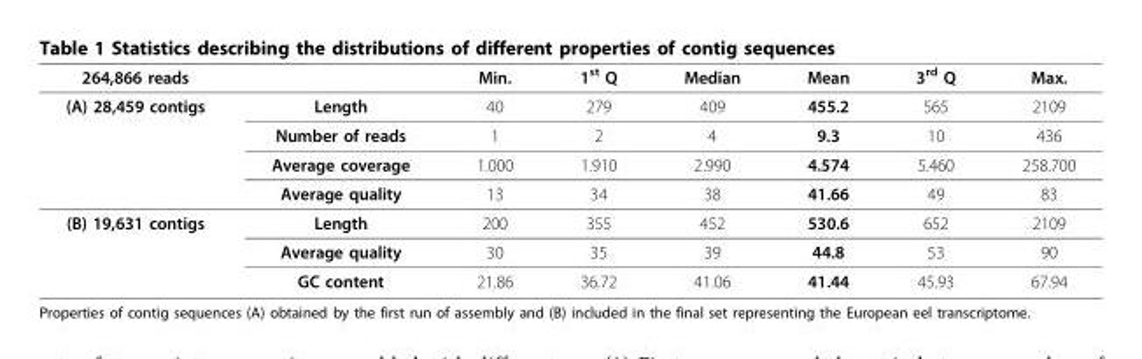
<table><thead><tr><td>264,866 reads</td><td></td><td>Min.</td><td>1<sup>st</sup> Q</td><td>Median</td><td>Mean</td><td>3<sup>rd</sup> Q</td><td>Max.</td></tr></thead><tbody><tr><td rowspan="4">(A) 28,459 contigs</td><td>Length</td><td>40</td><td>279</td><td>409</td><td>455.2</td><td>565</td><td>2109</td></tr><tr><td>Number of reads</td><td>1</td><td>2</td><td>4</td><td>9.3</td><td>10</td><td>436</td></tr><tr><td>Average coverage</td><td>1.000</td><td>1.910</td><td>2.990</td><td>4.574</td><td>5.460</td><td>258.700</td></tr><tr><td>Average quality</td><td>13</td><td>34</td><td>38</td><td>41.66</td><td>49</td><td>83</td></tr><tr><td rowspan="3">(B) 19,631 contigs</td><td>Length</td><td>200</td><td>355</td><td>452</td><td>530.6</td><td>652</td><td>2109</td></tr><tr><td>Average quality</td><td>30</td><td>35</td><td>39</td><td>44.8</td><td>53</td><td>90</td></tr><tr><td>GC content</td><td>21.86</td><td>36.72</td><td>41.06</td><td>41.44</td><td>45.93</td><td>67.94</td></tr></tbody></table>